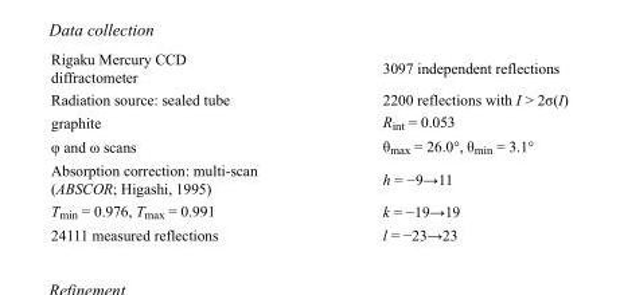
<table><tbody><tr><td>Rigaku Mercury CCD diffractometer</td><td>3097 independent reflections</td></tr><tr><td>Radiation source: sealed tube</td><td>2200 reflections with I &gt; 2σ(I)</td></tr><tr><td>graphite</td><td>R<sub>int</sub> = 0.053</td></tr><tr><td>φ and ω scans</td><td>θ<sub>max</sub> = 26.0°, θ<sub>min</sub> = 3.1°</td></tr><tr><td>Absorption correction: multi-scan (ABSCOR; Higashi, 1995)</td><td>h = −9→11</td></tr><tr><td>T<sub>min</sub> = 0.976, T<sub>max</sub> = 0.991</td><td>k = −19→19</td></tr><tr><td>24111 measured reflections</td><td>l = −23→23</td></tr></tbody></table>